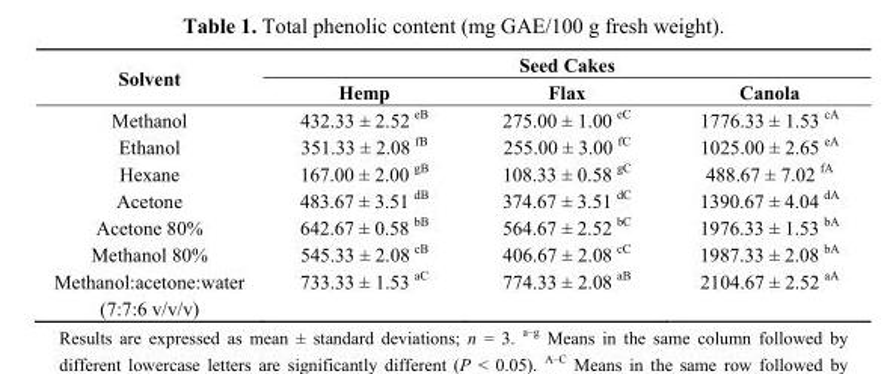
<table><thead><tr><td rowspan="2">Solvent</td><td colspan="3">Seed Cakes</td></tr><tr><td>Hemp</td><td>Flax</td><td>Canola</td></tr></thead><tbody><tr><td>Methanol</td><td>432.33 ± 2.52 <sup>eB</sup></td><td>275.00 ± 1.00 <sup>eC</sup></td><td>1776.33 ± 1.53 <sup>cA</sup></td></tr><tr><td>Ethanol</td><td>351.33 ± 2.08 <sup>fB</sup></td><td>255.00 ± 3.00 <sup>fC</sup></td><td>1025.00 ± 2.65 <sup>eA</sup></td></tr><tr><td>Hexane</td><td>167.00 ± 2.00 <sup>gB</sup></td><td>108.33 ± 0.58 <sup>gC</sup></td><td>488.67 ± 7.02 <sup>fA</sup></td></tr><tr><td>Acetone</td><td>483.67 ± 3.51 <sup>dB</sup></td><td>374.67 ± 3.51 <sup>dC</sup></td><td>1390.67 ± 4.04 <sup>dA</sup></td></tr><tr><td>Acetone 80%</td><td>642.67 ± 0.58 <sup>bB</sup></td><td>564.67 ± 2.52 <sup>bC</sup></td><td>1976.33 ± 1.53 <sup>bA</sup></td></tr><tr><td>Methanol 80%</td><td>545.33 ± 2.08 <sup>cB</sup></td><td>406.67 ± 2.08 <sup>cC</sup></td><td>1987.33 ± 2.08 <sup>bA</sup></td></tr><tr><td>Methanol:acetone:water (7:7:6 v/v/v)</td><td>733.33 ± 1.53 <sup>aC</sup></td><td>774.33 ± 2.08 <sup>aB</sup></td><td>2104.67 ± 2.52 <sup>aA</sup></td></tr></tbody></table>